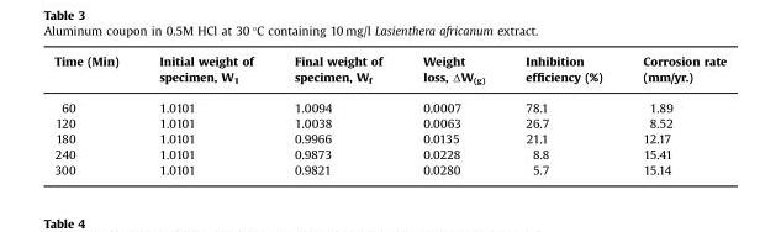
<table><thead><tr><td>Time (Min)</td><td>Initial weight of specimen, W<sub>1</sub></td><td>Final weight of specimen, W<sub>f</sub></td><td>Weight loss, ΔW(g)</td><td>Inhibition efficiency (%)</td><td>Corrosion rate (mm/yr.)</td></tr></thead><tbody><tr><td>60</td><td>1.0101</td><td>1.0094</td><td>0.0007</td><td>78.1</td><td>1.89</td></tr><tr><td>120</td><td>1.0101</td><td>1.0038</td><td>0.0063</td><td>26.7</td><td>8.52</td></tr><tr><td>180</td><td>1.0101</td><td>0.9966</td><td>0.0135</td><td>21.1</td><td>12.17</td></tr><tr><td>240</td><td>1.0101</td><td>0.9873</td><td>0.0228</td><td>8.8</td><td>15.41</td></tr><tr><td>300</td><td>1.0101</td><td>0.9821</td><td>0.0280</td><td>5.7</td><td>15.14</td></tr></tbody></table>